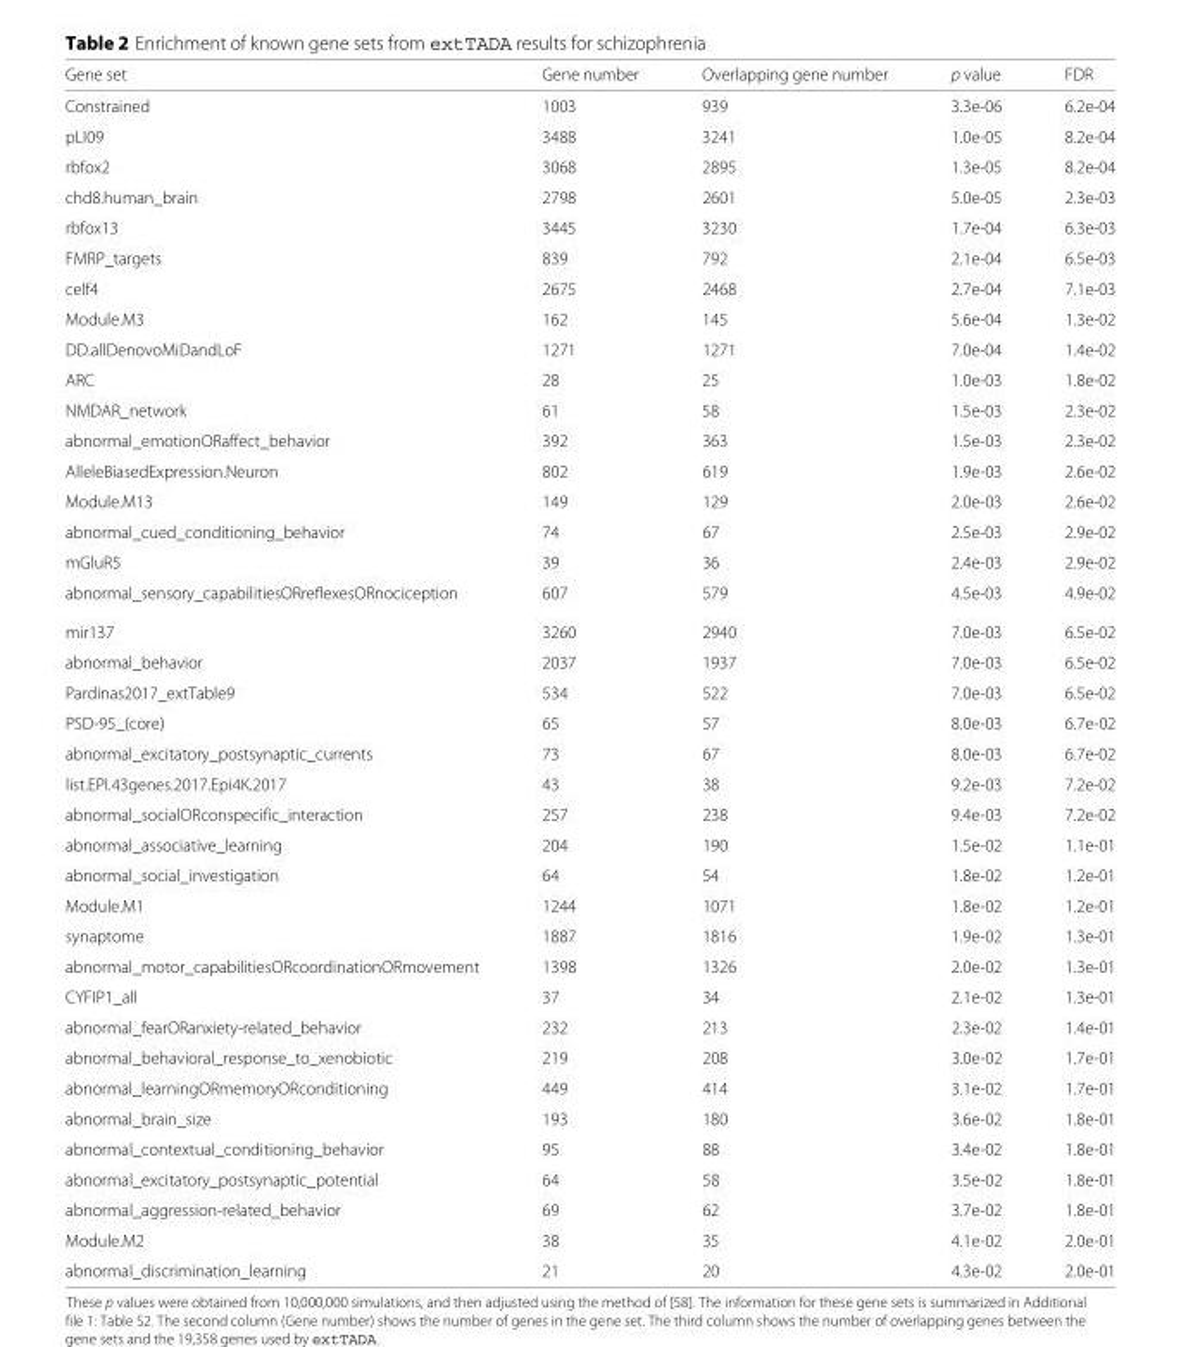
<table><thead><tr><td>Gene set</td><td>Gene number</td><td>Overlapping gene number</td><td>p value</td><td>FDR</td></tr></thead><tbody><tr><td>Constrained</td><td>1003</td><td>939</td><td>3.3e-06</td><td>6.2e-04</td></tr><tr><td>pLI09</td><td>3488</td><td>3241</td><td>1.0e-05</td><td>8.2e-04</td></tr><tr><td>rbfox2</td><td>3068</td><td>2895</td><td>1.3e-05</td><td>8.2e-04</td></tr><tr><td>chd8.human_brain</td><td>2798</td><td>2601</td><td>5.0e-05</td><td>2.3e-03</td></tr><tr><td>rbfox13</td><td>3445</td><td>3230</td><td>1.7e-04</td><td>6.3e-03</td></tr><tr><td>FMRP_targets</td><td>839</td><td>792</td><td>2.1e-04</td><td>6.5e-03</td></tr><tr><td>celf4</td><td>2675</td><td>2468</td><td>2.7e-04</td><td>7.1e-03</td></tr><tr><td>Module.M3</td><td>162</td><td>145</td><td>5.6e-04</td><td>1.3e-02</td></tr><tr><td>DD.allDenovoMiDandLoF</td><td>1271</td><td>1271</td><td>7.0e-04</td><td>1.4e-02</td></tr><tr><td>ARC</td><td>28</td><td>25</td><td>1.0e-03</td><td>1.8e-02</td></tr><tr><td>NMDAR_network</td><td>61</td><td>58</td><td>1.5e-03</td><td>2.3e-02</td></tr><tr><td>abnormal_emotionORaffect_behavior</td><td>392</td><td>363</td><td>1.5e-03</td><td>2.3e-02</td></tr><tr><td>AlleleBiasedExpression.Neuron</td><td>802</td><td>619</td><td>1.9e-03</td><td>2.6e-02</td></tr><tr><td>Module.M13</td><td>149</td><td>129</td><td>2.0e-03</td><td>2.6e-02</td></tr><tr><td>abnormal_cued_conditioning_behavior</td><td>74</td><td>67</td><td>2.5e-03</td><td>2.9e-02</td></tr><tr><td>mGluR5</td><td>39</td><td>36</td><td>2.4e-03</td><td>2.9e-02</td></tr><tr><td>abnormal_sensory_capabilitiesORreflexesORnociception</td><td>607</td><td>579</td><td>4.5e-03</td><td>4.9e-02</td></tr><tr><td>mir137</td><td>3260</td><td>2940</td><td>7.0e-03</td><td>6.5e-02</td></tr><tr><td>abnormal_behavior</td><td>2037</td><td>1937</td><td>7.0e-03</td><td>6.5e-02</td></tr><tr><td>Pardinas2017_extTable9</td><td>534</td><td>522</td><td>7.0e-03</td><td>6.5e-02</td></tr><tr><td>PSD-95_(core)</td><td>65</td><td>57</td><td>8.0e-03</td><td>6.7e-02</td></tr><tr><td>abnormal_excitatory_postsynaptic_currents</td><td>73</td><td>67</td><td>8.0e-03</td><td>6.7e-02</td></tr><tr><td>list.EPI.43genes.2017.Epi4K.2017</td><td>43</td><td>38</td><td>9.2e-03</td><td>7.2e-02</td></tr><tr><td>abnormal_socialORconspecific_interaction</td><td>257</td><td>238</td><td>9.4e-03</td><td>7.2e-02</td></tr><tr><td>abnormal_associative_learning</td><td>204</td><td>190</td><td>1.5e-02</td><td>1.1e-01</td></tr><tr><td>abnormal_social_investigation</td><td>64</td><td>54</td><td>1.8e-02</td><td>1.2e-01</td></tr><tr><td>Module.M1</td><td>1244</td><td>1071</td><td>1.8e-02</td><td>1.2e-01</td></tr><tr><td>synaptome</td><td>1887</td><td>1816</td><td>1.9e-02</td><td>1.3e-01</td></tr><tr><td>abnormal_motor_capabilitiesORcoordinationORmovement</td><td>1398</td><td>1326</td><td>2.0e-02</td><td>1.3e-01</td></tr><tr><td>CYFIP1_all</td><td>37</td><td>34</td><td>2.1e-02</td><td>1.3e-01</td></tr><tr><td>abnormal_fearORanxiety-related_behavior</td><td>232</td><td>213</td><td>2.3e-02</td><td>1.4e-01</td></tr><tr><td>abnormal_behavioral_response_to_xenobiotic</td><td>219</td><td>208</td><td>3.0e-02</td><td>1.7e-01</td></tr><tr><td>abnormal_learningORmemoryORconditioning</td><td>449</td><td>414</td><td>3.1e-02</td><td>1.7e-01</td></tr><tr><td>abnormal_brain_size</td><td>193</td><td>180</td><td>3.6e-02</td><td>1.8e-01</td></tr><tr><td>abnormal_contextual_conditioning_behavior</td><td>95</td><td>88</td><td>3.4e-02</td><td>1.8e-01</td></tr><tr><td>abnormal_excitatory_postsynaptic_potential</td><td>64</td><td>58</td><td>3.5e-02</td><td>1.8e-01</td></tr><tr><td>abnormal_aggression-related_behavior</td><td>69</td><td>62</td><td>3.7e-02</td><td>1.8e-01</td></tr><tr><td>Module.M2</td><td>38</td><td>35</td><td>4.1e-02</td><td>2.0e-01</td></tr><tr><td>abnormal_discrimination_learning</td><td>21</td><td>20</td><td>4.3e-02</td><td>2.0e-01</td></tr></tbody></table>